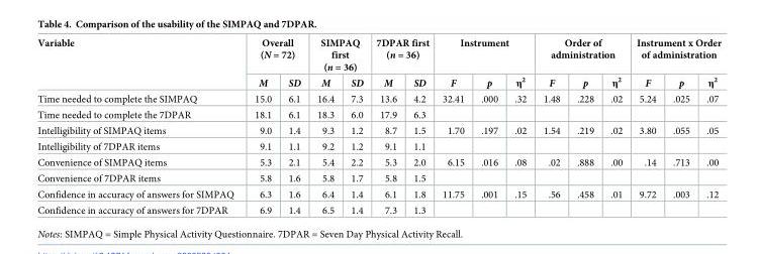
<table><thead><tr><td rowspan="2">Variable</td><td colspan="2">Overall (N = 72)</td><td colspan="2">SIMPAQ first (n = 36)</td><td colspan="2">7DPAR first (n = 36)</td><td colspan="3">Instrument</td><td colspan="3">Order of administration</td><td colspan="3">Instrument x Order of administration</td></tr><tr><td>M</td><td>SD</td><td>M</td><td>SD</td><td>M</td><td>SD</td><td>F</td><td>p</td><td>η<sup>2</sup></td><td>F</td><td>p</td><td>η<sup>2</sup></td><td>F</td><td>p</td><td>η<sup>2</sup></td></tr></thead><tbody><tr><td>Time needed to complete the SIMPAQ</td><td>15.0</td><td>6.1</td><td>16.4</td><td>7.3</td><td>13.6</td><td>4.2</td><td>32.41</td><td>.000</td><td>.32</td><td>1.48</td><td>.228</td><td>.02</td><td>5.24</td><td>.025</td><td>.07</td></tr><tr><td>Time needed to complete the 7DPAR</td><td>18.1</td><td>6.1</td><td>18.3</td><td>6.0</td><td>17.9</td><td>6.3</td><td></td><td></td><td></td><td></td><td></td><td></td><td></td><td></td><td></td></tr><tr><td>Intelligibility of SIMPAQ items</td><td>9.0</td><td>1.4</td><td>9.3</td><td>1.2</td><td>8.7</td><td>1.5</td><td>1.70</td><td>.197</td><td>.02</td><td>1.54</td><td>.219</td><td>.02</td><td>3.80</td><td>.055</td><td>.05</td></tr><tr><td>Intelligibility of 7DPAR items</td><td>9.1</td><td>1.1</td><td>9.2</td><td>1.2</td><td>9.1</td><td>1.1</td><td></td><td></td><td></td><td></td><td></td><td></td><td></td><td></td><td></td></tr><tr><td>Convenience of SIMPAQ items</td><td>5.3</td><td>2.1</td><td>5.4</td><td>2.2</td><td>5.3</td><td>2.0</td><td>6.15</td><td>.016</td><td>.08</td><td>.02</td><td>.888</td><td>.00</td><td>.14</td><td>.713</td><td>.00</td></tr><tr><td>Convenience of 7DPAR items</td><td>5.8</td><td>1.6</td><td>5.8</td><td>1.7</td><td>5.8</td><td>1.5</td><td></td><td></td><td></td><td></td><td></td><td></td><td></td><td></td><td></td></tr><tr><td>Confidence in accuracy of answers for SIMPAQ</td><td>6.3</td><td>1.6</td><td>6.4</td><td>1.4</td><td>6.1</td><td>1.8</td><td>11.75</td><td>.001</td><td>.15</td><td>.56</td><td>.458</td><td>.01</td><td>9.72</td><td>.003</td><td>.12</td></tr><tr><td>Confidence in accuracy of answers for 7DPAR</td><td>6.9</td><td>1.4</td><td>6.5</td><td>1.4</td><td>7.3</td><td>1.3</td><td></td><td></td><td></td><td></td><td></td><td></td><td></td><td></td><td></td></tr></tbody></table>